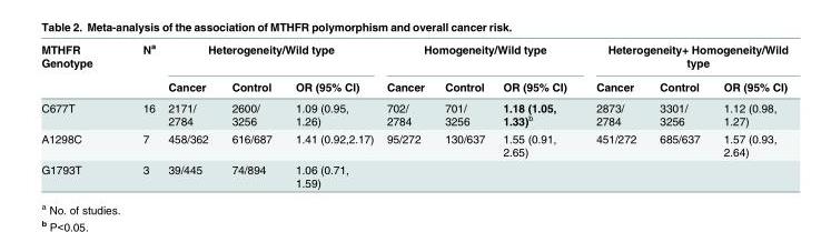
<table><thead><tr><td rowspan="2">MTHFR Genotype</td><td rowspan="2">N<sup>a</sup></td><td colspan="3">Heterogeneity/Wild type</td><td colspan="3">Homogeneity/Wild type</td><td colspan="3">Heterogeneity+ Homogeneity/Wild type</td></tr><tr><td>Cancer</td><td>Control</td><td>OR (95% CI)</td><td>Cancer</td><td>Control</td><td>OR (95% CI)</td><td>Cancer</td><td>Control</td><td>OR (95% CI)</td></tr></thead><tbody><tr><td>C677T</td><td>16</td><td>2171/ 2784</td><td>2600/ 3256</td><td>1.09 (0.95, 1.26)</td><td>702/ 2784</td><td>701/ 3256</td><td>1.18 (1.05, 1.33)<sup>b</sup></td><td>2873/ 2784</td><td>3301/ 3256</td><td>1.12 (0.98, 1.27)</td></tr><tr><td>A1298C</td><td>7</td><td>458/362</td><td>616/687</td><td>1.41 (0.92,2.17)</td><td>95/272</td><td>130/637</td><td>1.55 (0.91, 2.65)</td><td>451/272</td><td>685/637</td><td>1.57 (0.93, 2.64)</td></tr><tr><td>G1793T</td><td>3</td><td>39/445</td><td>74/894</td><td>1.06 (0.71, 1.59)</td><td></td><td></td><td></td><td></td><td></td><td></td></tr></tbody></table>